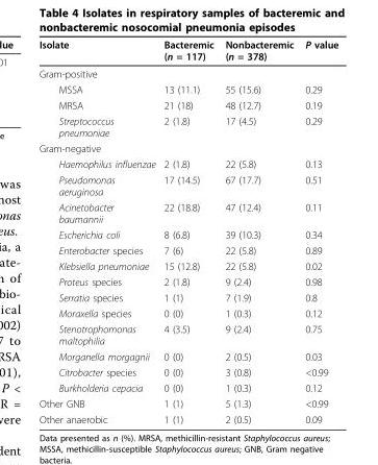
<table><thead><tr><td>Isolate</td><td>Bacteremic (n = 117)</td><td>Nonbacteremic (n = 378)</td><td>P value</td></tr></thead><tbody><tr><td colspan="4">Gram-positive</td></tr><tr><td>MSSA</td><td>13 (11.1)</td><td>55 (15.6)</td><td>0.29</td></tr><tr><td>MRSA</td><td>21 (18)</td><td>48 (12.7)</td><td>0.19</td></tr><tr><td>Streptococcus pneumoniae</td><td>2 (1.8)</td><td>17 (4.5)</td><td>0.29</td></tr><tr><td colspan="4">Gram-negative</td></tr><tr><td>Haemophilus influenzae</td><td>2 (1.8)</td><td>22 (5.8)</td><td>0.13</td></tr><tr><td>Pseudomonas aeruginosa</td><td>17 (14.5)</td><td>67 (17.7)</td><td>0.51</td></tr><tr><td>Acinetobacter baumannii</td><td>22 (18.8)</td><td>47 (12.4)</td><td>0.11</td></tr><tr><td>Escherichia coli</td><td>8 (6.8)</td><td>39 (10.3)</td><td>0.34</td></tr><tr><td>Enterobacter species</td><td>7 (6)</td><td>22 (5.8)</td><td>0.89</td></tr><tr><td>Klebsiella pneumoniae</td><td>15 (12.8)</td><td>22 (5.8)</td><td>0.02</td></tr><tr><td>Proteus species</td><td>2 (1.8)</td><td>9 (2.4)</td><td>0.98</td></tr><tr><td>Serratia species</td><td>1 (1)</td><td>7 (1.9)</td><td>0.8</td></tr><tr><td>Moraxella species</td><td>0 (0)</td><td>1 (0.3)</td><td>0.12</td></tr><tr><td>Stenotrophomonas maltophilia</td><td>4 (3.5)</td><td>9 (2.4)</td><td>0.75</td></tr><tr><td>Morganella morgagnii</td><td>0 (0)</td><td>2 (0.5)</td><td>0.03</td></tr><tr><td>Citrobacter species</td><td>0 (0)</td><td>3 (0.8)</td><td>&lt;0.99</td></tr><tr><td>Burkholderia cepacia</td><td>0 (0)</td><td>1 (0.3)</td><td>0.12</td></tr><tr><td>Other GNB</td><td>1 (1)</td><td>5 (1.3)</td><td>&lt;0.99</td></tr><tr><td>Other anaerobic</td><td>1 (1)</td><td>2 (0.5)</td><td>0.09</td></tr></tbody></table>